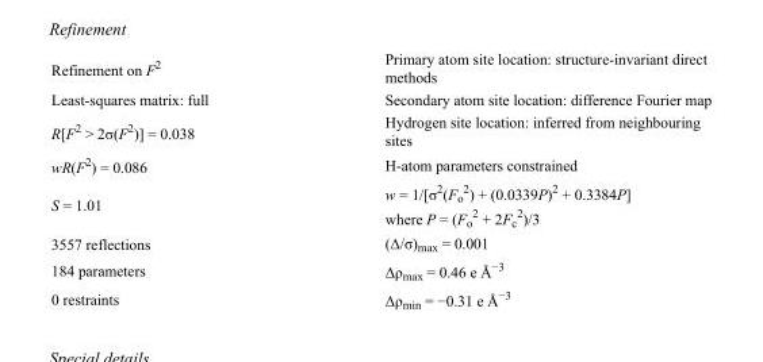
<table><tbody><tr><td>Refinement on F<sup>2</sup></td><td>Primary atom site location: structure-invariant direct methods</td></tr><tr><td>Least-squares matrix: full</td><td>Secondary atom site location: difference Fourier map</td></tr><tr><td>R[F<sup>2</sup> &gt; 2σ(F<sup>2</sup>)] = 0.038</td><td>Hydrogen site location: inferred from neighbouring sites</td></tr><tr><td>wR(F<sup>2</sup>) = 0.086</td><td>H-atom parameters constrained</td></tr><tr><td>S = 1.01</td><td>w = 1/[σ<sup>2</sup>(F<sub>o</sub> <sup>2</sup>) + (0.0339P)<sup>2</sup> + 0.3384P] where P = (F<sub>o</sub> <sup>2</sup> + 2F<sub>c</sub> <sup>2</sup>)/3</td></tr><tr><td>3557 reflections</td><td>(Δ/σ)<sub>max</sub> = 0.001</td></tr><tr><td>184 parameters</td><td>Δρ<sub>max</sub> = 0.46 e Å<sup>−3</sup></td></tr><tr><td>0 restraints</td><td>Δρ<sub>min</sub> = −0.31 e Å<sup>−3</sup></td></tr></tbody></table>